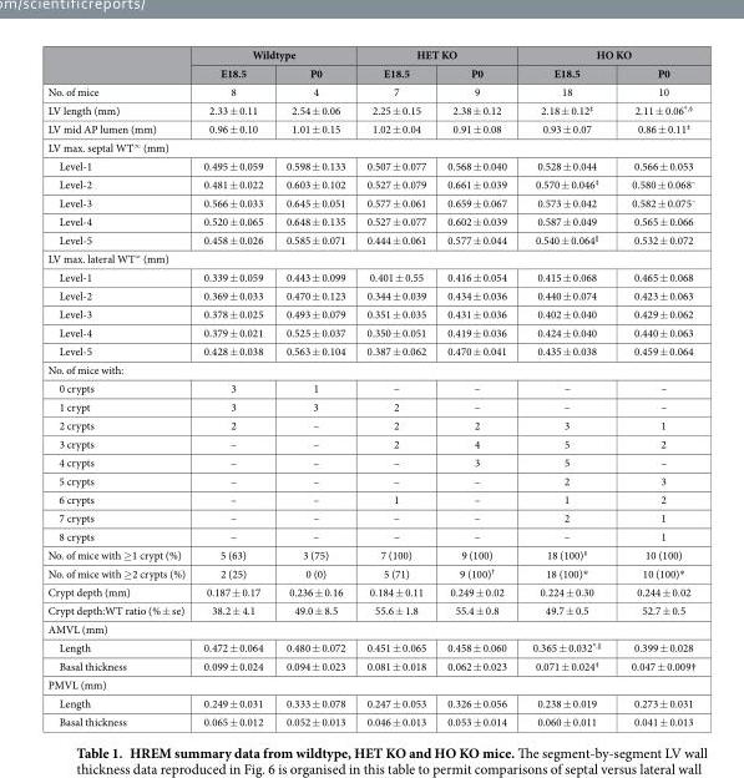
<table><thead><tr><td rowspan="2"></td><td colspan="2">Wildtype</td><td colspan="2">HET KO</td><td colspan="2">HO KO</td></tr><tr><td>E18.5</td><td>P0</td><td>E18.5</td><td>P0</td><td>E18.5</td><td>P0</td></tr></thead><tbody><tr><td>No. of mice</td><td>8</td><td>4</td><td>7</td><td>9</td><td>18</td><td>10</td></tr><tr><td>LV length (mm)</td><td>2.33 ± 0.11</td><td>2.54 ± 0.06</td><td>2.25 ± 0.15</td><td>2.38 ± 0.12</td><td>2.18 ± 0.12‡</td><td>2.11 ± 0.06*<sup>,</sup>§</td></tr><tr><td>LV mid AP lumen (mm)</td><td>0.96 ± 0.10</td><td>1.01 ± 0.15</td><td>1.02 ± 0.04</td><td>0.91 ± 0.08</td><td>0.93 ± 0.07</td><td>0.86 ± 0.11‡</td></tr><tr><td colspan="7">LV max. septal WT∞ (mm)</td></tr><tr><td>Level-1</td><td>0.495 ± 0.059</td><td>0.598 ± 0.133</td><td>0.507 ± 0.077</td><td>0.568 ± 0.040</td><td>0.528 ± 0.044</td><td>0.566 ± 0.053</td></tr><tr><td>Level-2</td><td>0.481 ± 0.022</td><td>0.603 ± 0.102</td><td>0.527 ± 0.079</td><td>0.661 ± 0.039</td><td>0.570 ± 0.046‡</td><td>0.580 ± 0.068~</td></tr><tr><td>Level-3</td><td>0.566 ± 0.033</td><td>0.645 ± 0.051</td><td>0.577 ± 0.061</td><td>0.659 ± 0.067</td><td>0.573 ± 0.042</td><td>0.582 ± 0.075~</td></tr><tr><td>Level-4</td><td>0.520 ± 0.065</td><td>0.648 ± 0.135</td><td>0.527 ± 0.077</td><td>0.602 ± 0.039</td><td>0.587 ± 0.049</td><td>0.565 ± 0.066</td></tr><tr><td>Level-5</td><td>0.458 ± 0.026</td><td>0.585 ± 0.071</td><td>0.444 ± 0.061</td><td>0.577 ± 0.044</td><td>0.540 ± 0.064‖</td><td>0.532 ± 0.072</td></tr><tr><td colspan="7">LV max. lateral WT≠ (mm)</td></tr><tr><td>Level-1</td><td>0.339 ± 0.059</td><td>0.443 ± 0.099</td><td>0.401 ± 0.55</td><td>0.416 ± 0.054</td><td>0.415 ± 0.068</td><td>0.465 ± 0.068</td></tr><tr><td>Level-2</td><td>0.369 ± 0.033</td><td>0.470 ± 0.123</td><td>0.344 ± 0.039</td><td>0.434 ± 0.036</td><td>0.440 ± 0.074</td><td>0.423 ± 0.063</td></tr><tr><td>Level-3</td><td>0.378 ± 0.025</td><td>0.493 ± 0.079</td><td>0.351 ± 0.035</td><td>0.431 ± 0.036</td><td>0.402 ± 0.040</td><td>0.429 ± 0.062</td></tr><tr><td>Level-4</td><td>0.379 ± 0.021</td><td>0.525 ± 0.037</td><td>0.350 ± 0.051</td><td>0.419 ± 0.036</td><td>0.424 ± 0.040</td><td>0.440 ± 0.063</td></tr><tr><td>Level-5</td><td>0.428 ± 0.038</td><td>0.563 ± 0.104</td><td>0.387 ± 0.062</td><td>0.470 ± 0.041</td><td>0.435 ± 0.038</td><td>0.459 ± 0.064</td></tr><tr><td colspan="7">No. of mice with:</td></tr><tr><td>0 crypts</td><td>3</td><td>1</td><td>–</td><td>–</td><td>–</td><td>–</td></tr><tr><td>1 crypt</td><td>3</td><td>3</td><td>2</td><td>–</td><td>–</td><td>–</td></tr><tr><td>2 crypts</td><td>2</td><td>–</td><td>2</td><td>2</td><td>3</td><td>1</td></tr><tr><td>3 crypts</td><td>–</td><td>–</td><td>2</td><td>4</td><td>5</td><td>2</td></tr><tr><td>4 crypts</td><td>–</td><td>–</td><td>–</td><td>3</td><td>5</td><td>–</td></tr><tr><td>5 crypts</td><td>–</td><td>–</td><td>–</td><td>–</td><td>2</td><td>3</td></tr><tr><td>6 crypts</td><td>–</td><td>–</td><td>1</td><td>–</td><td>1</td><td>2</td></tr><tr><td>7 crypts</td><td>–</td><td>–</td><td>–</td><td>–</td><td>2</td><td>1</td></tr><tr><td>8 crypts</td><td>–</td><td>–</td><td>–</td><td>–</td><td>–</td><td>1</td></tr><tr><td>No. of mice with ≥ 1 crypt (%)</td><td>5 (63)</td><td>3 (75)</td><td>7 (100)</td><td>9 (100)</td><td>18 (100)‡</td><td>10 (100)</td></tr><tr><td>No. of mice with ≥ 2 crypts (%)</td><td>2 (25)</td><td>0 (0)</td><td>5 (71)</td><td>9 (100)†</td><td>18 (100)*</td><td>10 (100)*</td></tr><tr><td>Crypt depth (mm)</td><td>0.187 ± 0.17</td><td>0.236 ± 0.16</td><td>0.184 ± 0.11</td><td>0.249 ± 0.02</td><td>0.224 ± 0.30</td><td>0.244 ± 0.02</td></tr><tr><td>Crypt depth:WT ratio (% ± se)</td><td>38.2 ± 4.1</td><td>49.0 ± 8.5</td><td>55.6 ± 1.8</td><td>55.4 ± 0.8</td><td>49.7 ± 0.5</td><td>52.7 ± 0.5</td></tr><tr><td colspan="7">AMVL (mm)</td></tr><tr><td>Length</td><td>0.472 ± 0.064</td><td>0.480 ± 0.072</td><td>0.451 ± 0.065</td><td>0.458 ± 0.060</td><td>0.365 ± 0.032*<sup>,</sup>‖</td><td>0.399 ± 0.028</td></tr><tr><td>Basal thickness</td><td>0.099 ± 0.024</td><td>0.094 ± 0.023</td><td>0.081 ± 0.018</td><td>0.062 ± 0.023</td><td>0.071 ± 0.024‡</td><td>0.047 ± 0.009†</td></tr><tr><td colspan="7">PMVL (mm)</td></tr><tr><td>Length</td><td>0.249 ± 0.031</td><td>0.333 ± 0.078</td><td>0.247 ± 0.053</td><td>0.326 ± 0.056</td><td>0.238 ± 0.019</td><td>0.273 ± 0.031</td></tr><tr><td>Basal thickness</td><td>0.065 ± 0.012</td><td>0.052 ± 0.013</td><td>0.046 ± 0.013</td><td>0.053 ± 0.014</td><td>0.060 ± 0.011</td><td>0.041 ± 0.013</td></tr></tbody></table>